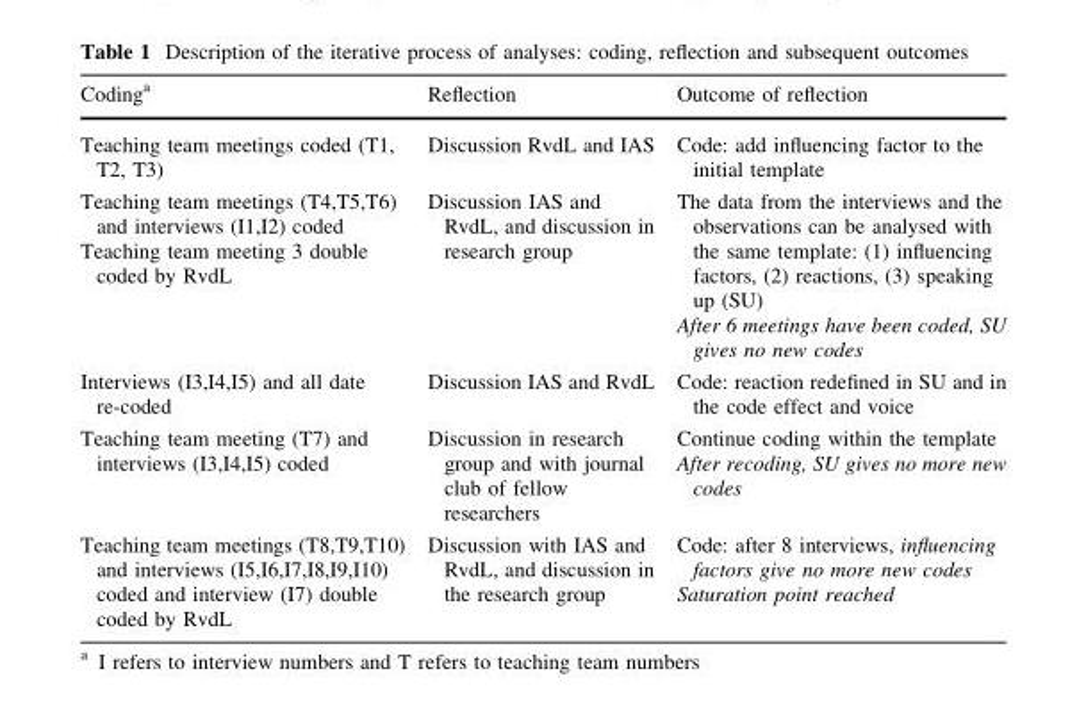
<table><thead><tr><td>Coding<sup>a</sup></td><td>Reflection</td><td>Outcome of reflection</td></tr></thead><tbody><tr><td>Teaching team meetings coded (T1, T2, T3)</td><td>Discussion RvdL and IAS</td><td>Code: add influencing factor to the initial template</td></tr><tr><td>Teaching team meetings (T4,T5,T6) and interviews (I1,I2) coded Teaching team meeting 3 double coded by RvdL</td><td>Discussion IAS and RvdL, and discussion in research group</td><td>The data from the interviews and the observations can be analysed with the same template: (1) influencing factors, (2) reactions, (3) speaking up (SU) After 6 meetings have been coded, SU gives no new codes</td></tr><tr><td>Interviews (I3,I4,I5) and all date re-coded</td><td>Discussion IAS and RvdL</td><td>Code: reaction redefined in SU and in the code effect and voice</td></tr><tr><td>Teaching team meeting (T7) and interviews (I3,I4,I5) coded</td><td>Discussion in research group and with journal club of fellow researchers</td><td>Continue coding within the template After recoding, SU gives no more new codes</td></tr><tr><td>Teaching team meetings (T8,T9,T10) and interviews (I5,I6,I7,I8,I9,I10) coded and interview (I7) double coded by RvdL</td><td>Discussion with IAS and RvdL, and discussion in the research group</td><td>Code: after 8 interviews, influencing factors give no more new codes Saturation point reached</td></tr></tbody></table>